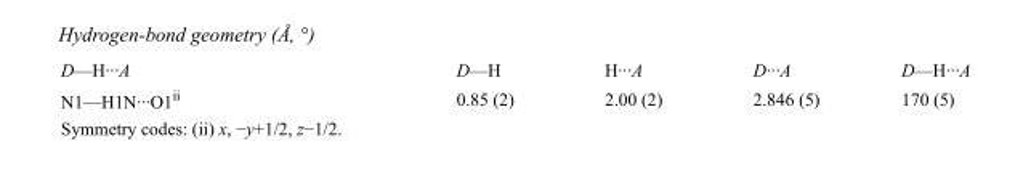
<table><tbody><tr><td>D—H···A</td><td>D—H</td><td>H···A</td><td>D···A</td><td>D—H···A</td></tr><tr><td>N1—H1N···O1<sup>ii</sup></td><td>0.85 (2)</td><td>2.00 (2)</td><td>2.846 (5)</td><td>170 (5)</td></tr></tbody></table>